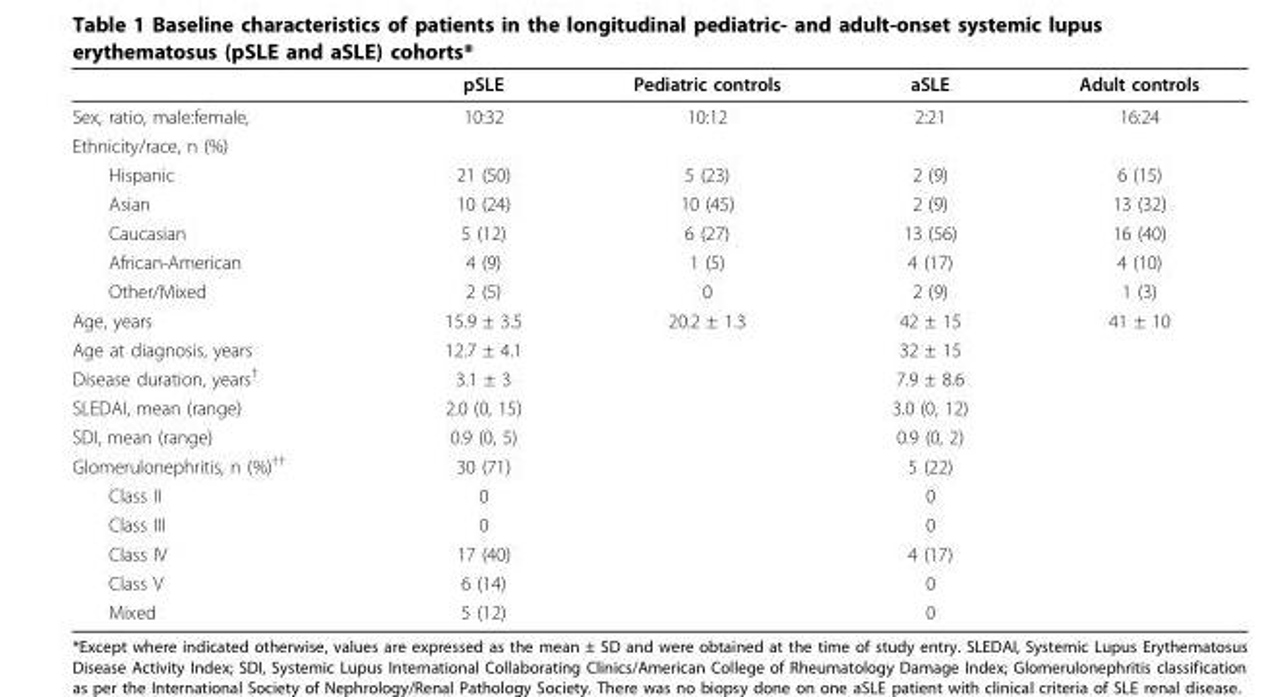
<table><thead><tr><td></td><td>pSLE</td><td>Pediatric controls</td><td>aSLE</td><td>Adult controls</td></tr></thead><tbody><tr><td>Sex, ratio, male:female,</td><td>10:32</td><td>10:12</td><td>2:21</td><td>16:24</td></tr><tr><td colspan="5">Ethnicity/race, n (%)</td></tr><tr><td>Hispanic</td><td>21 (50)</td><td>5 (23)</td><td>2 (9)</td><td>6 (15)</td></tr><tr><td>Asian</td><td>10 (24)</td><td>10 (45)</td><td>2 (9)</td><td>13 (32)</td></tr><tr><td>Caucasian</td><td>5 (12)</td><td>6 (27)</td><td>13 (56)</td><td>16 (40)</td></tr><tr><td>African-American</td><td>4 (9)</td><td>1 (5)</td><td>4 (17)</td><td>4 (10)</td></tr><tr><td>Other/Mixed</td><td>2 (5)</td><td>0</td><td>2 (9)</td><td>1 (3)</td></tr><tr><td>Age, years</td><td>15.9 ± 3.5</td><td>20.2 ± 1.3</td><td>42 ± 15</td><td>41 ± 10</td></tr><tr><td>Age at diagnosis, years</td><td>12.7 ± 4.1</td><td></td><td>32 ± 15</td><td></td></tr><tr><td>Disease duration, years<sup>†</sup></td><td>3.1 ± 3</td><td></td><td>7.9 ± 8.6</td><td></td></tr><tr><td>SLEDAI, mean (range)</td><td>2.0 (0, 15)</td><td></td><td>3.0 (0, 12)</td><td></td></tr><tr><td>SDI, mean (range)</td><td>0.9 (0, 5)</td><td></td><td>0.9 (0, 2)</td><td></td></tr><tr><td>Glomerulonephritis, n (%)<sup>††</sup></td><td>30 (71)</td><td></td><td>5 (22)</td><td></td></tr><tr><td>Class II</td><td>0</td><td></td><td>0</td><td></td></tr><tr><td>Class III</td><td>0</td><td></td><td>0</td><td></td></tr><tr><td>Class IV</td><td>17 (40)</td><td></td><td>4 (17)</td><td></td></tr><tr><td>Class V</td><td>6 (14)</td><td></td><td>0</td><td></td></tr><tr><td>Mixed</td><td>5 (12)</td><td></td><td>0</td><td></td></tr></tbody></table>